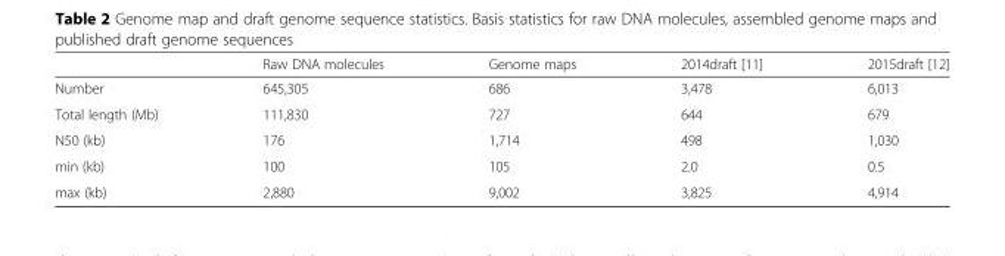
<table><thead><tr><td></td><td>Raw DNA molecules</td><td>Genome maps</td><td>2014draft [11]</td><td>2015draft [12]</td></tr></thead><tbody><tr><td>Number</td><td>645,305</td><td>686</td><td>3,478</td><td>6,013</td></tr><tr><td>Total length (Mb)</td><td>111,830</td><td>727</td><td>644</td><td>679</td></tr><tr><td>N50 (kb)</td><td>176</td><td>1,714</td><td>498</td><td>1,030</td></tr><tr><td>min (kb)</td><td>100</td><td>105</td><td>2.0</td><td>0.5</td></tr><tr><td>max (kb)</td><td>2,880</td><td>9,002</td><td>3,825</td><td>4,914</td></tr></tbody></table>